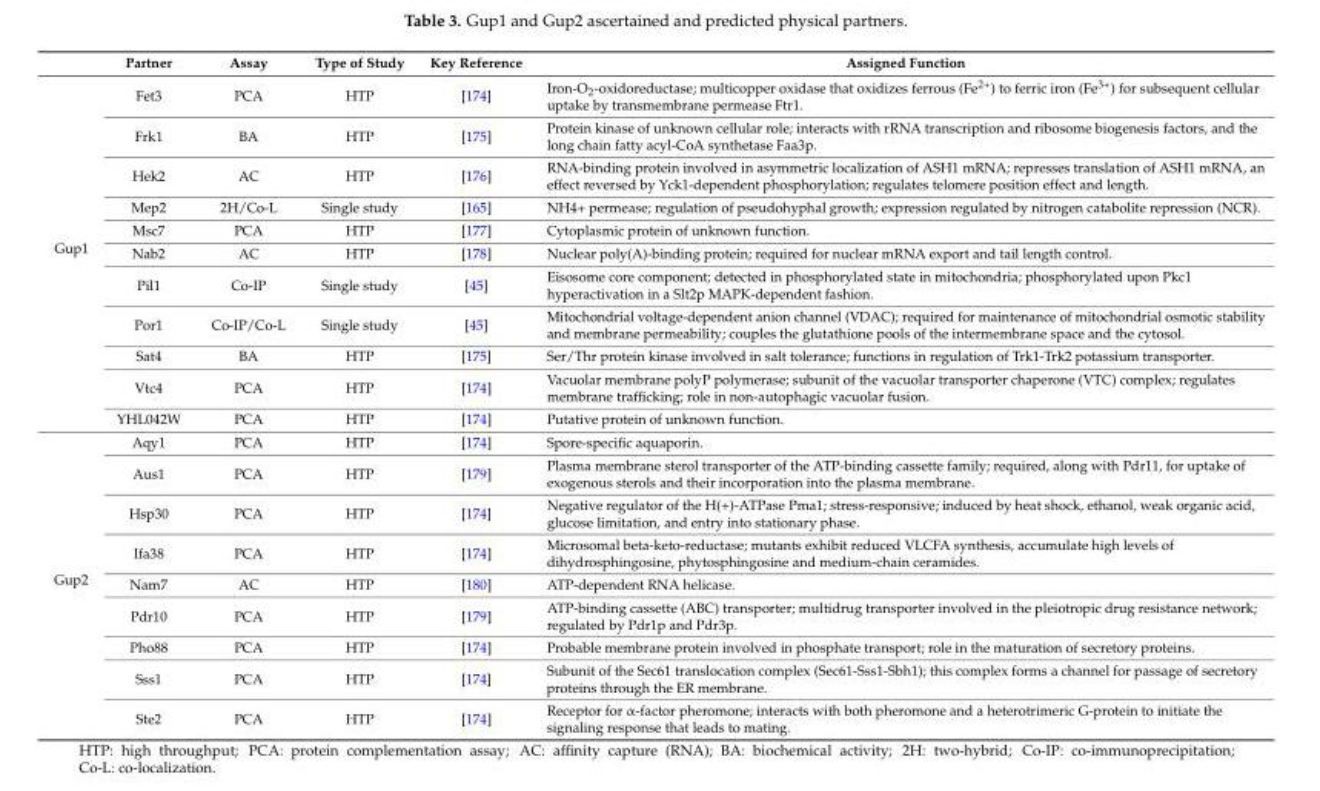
<table><thead><tr><td></td><td>Partner</td><td>Assay</td><td>Type of Study</td><td>Key Reference</td><td>Assigned Function</td></tr></thead><tbody><tr><td rowspan="11">Gup1</td><td>Fet3</td><td>PCA</td><td>HTP</td><td>[174]</td><td>Iron-O<sub>2</sub>-oxidoreductase; multicopper oxidase that oxidizes ferrous (Fe<sup>2+</sup>) to ferric iron (Fe<sup>3+</sup>) for subsequent cellular uptake by transmembrane permease Ftr1.</td></tr><tr><td>Frk1</td><td>BA</td><td>HTP</td><td>[175]</td><td>Protein kinase of unknown cellular role; interacts with rRNA transcription and ribosome biogenesis factors, and the long chain fatty acyl-CoA synthetase Faa3p.</td></tr><tr><td>Hek2</td><td>AC</td><td>HTP</td><td>[176]</td><td>RNA-binding protein involved in asymmetric localization of ASH1 mRNA; represses translation of ASH1 mRNA, an effect reversed by Yck1-dependent phosphorylation; regulates telomere position effect and length.</td></tr><tr><td>Mep2</td><td>2H/Co-L</td><td>Single study</td><td>[165]</td><td>NH4+ permease; regulation of pseudohyphal growth; expression regulated by nitrogen catabolite repression (NCR).</td></tr><tr><td>Msc7</td><td>PCA</td><td>HTP</td><td>[177]</td><td>Cytoplasmic protein of unknown function.</td></tr><tr><td>Nab2</td><td>AC</td><td>HTP</td><td>[178]</td><td>Nuclear poly(A)-binding protein; required for nuclear mRNA export and tail length control.</td></tr><tr><td>Pil1</td><td>Co-IP</td><td>Single study</td><td>[45]</td><td>Eisosome core component; detected in phosphorylated state in mitochondria; phosphorylated upon Pkc1 hyperactivation in a Slt2p MAPK-dependent fashion.</td></tr><tr><td>Por1</td><td>Co-IP/Co-L</td><td>Single study</td><td>[45]</td><td>Mitochondrial voltage-dependent anion channel (VDAC); required for maintenance of mitochondrial osmotic stability and membrane permeability; couples the glutathione pools of the intermembrane space and the cytosol.</td></tr><tr><td>Sat4</td><td>BA</td><td>HTP</td><td>[175]</td><td>Ser/Thr protein kinase involved in salt tolerance; functions in regulation of Trk1-Trk2 potassium transporter.</td></tr><tr><td>Vtc4</td><td>PCA</td><td>HTP</td><td>[174]</td><td>Vacuolar membrane polyP polymerase; subunit of the vacuolar transporter chaperone (VTC) complex; regulates membrane trafficking; role in non-autophagic vacuolar fusion.</td></tr><tr><td>YHL042W</td><td>PCA</td><td>HTP</td><td>[174]</td><td>Putative protein of unknown function.</td></tr><tr><td rowspan="9">Gup2</td><td>Aqy1</td><td>PCA</td><td>HTP</td><td>[174]</td><td>Spore-specific aquaporin.</td></tr><tr><td>Aus1</td><td>PCA</td><td>HTP</td><td>[179]</td><td>Plasma membrane sterol transporter of the ATP-binding cassette family; required, along with Pdr11, for uptake of exogenous sterols and their incorporation into the plasma membrane.</td></tr><tr><td>Hsp30</td><td>PCA</td><td>HTP</td><td>[174]</td><td>Negative regulator of the H(+)-ATPase Pma1; stress-responsive; induced by heat shock, ethanol, weak organic acid, glucose limitation, and entry into stationary phase.</td></tr><tr><td>Ifa38</td><td>PCA</td><td>HTP</td><td>[174]</td><td>Microsomal beta-keto-reductase; mutants exhibit reduced VLCFA synthesis, accumulate high levels of dihydrosphingosine, phytosphingosine and medium-chain ceramides.</td></tr><tr><td>Nam7</td><td>AC</td><td>HTP</td><td>[180]</td><td>ATP-dependent RNA helicase.</td></tr><tr><td>Pdr10</td><td>PCA</td><td>HTP</td><td>[179]</td><td>ATP-binding cassette (ABC) transporter; multidrug transporter involved in the pleiotropic drug resistance network; regulated by Pdr1p and Pdr3p.</td></tr><tr><td>Pho88</td><td>PCA</td><td>HTP</td><td>[174]</td><td>Probable membrane protein involved in phosphate transport; role in the maturation of secretory proteins.</td></tr><tr><td>Sss1</td><td>PCA</td><td>HTP</td><td>[174]</td><td>Subunit of the Sec61 translocation complex (Sec61-Sss1-Sbh1); this complex forms a channel for passage of secretory proteins through the ER membrane.</td></tr><tr><td>Ste2</td><td>PCA</td><td>HTP</td><td>[174]</td><td>Receptor for α-factor pheromone; interacts with both pheromone and a heterotrimeric G-protein to initiate the signaling response that leads to mating.</td></tr></tbody></table>